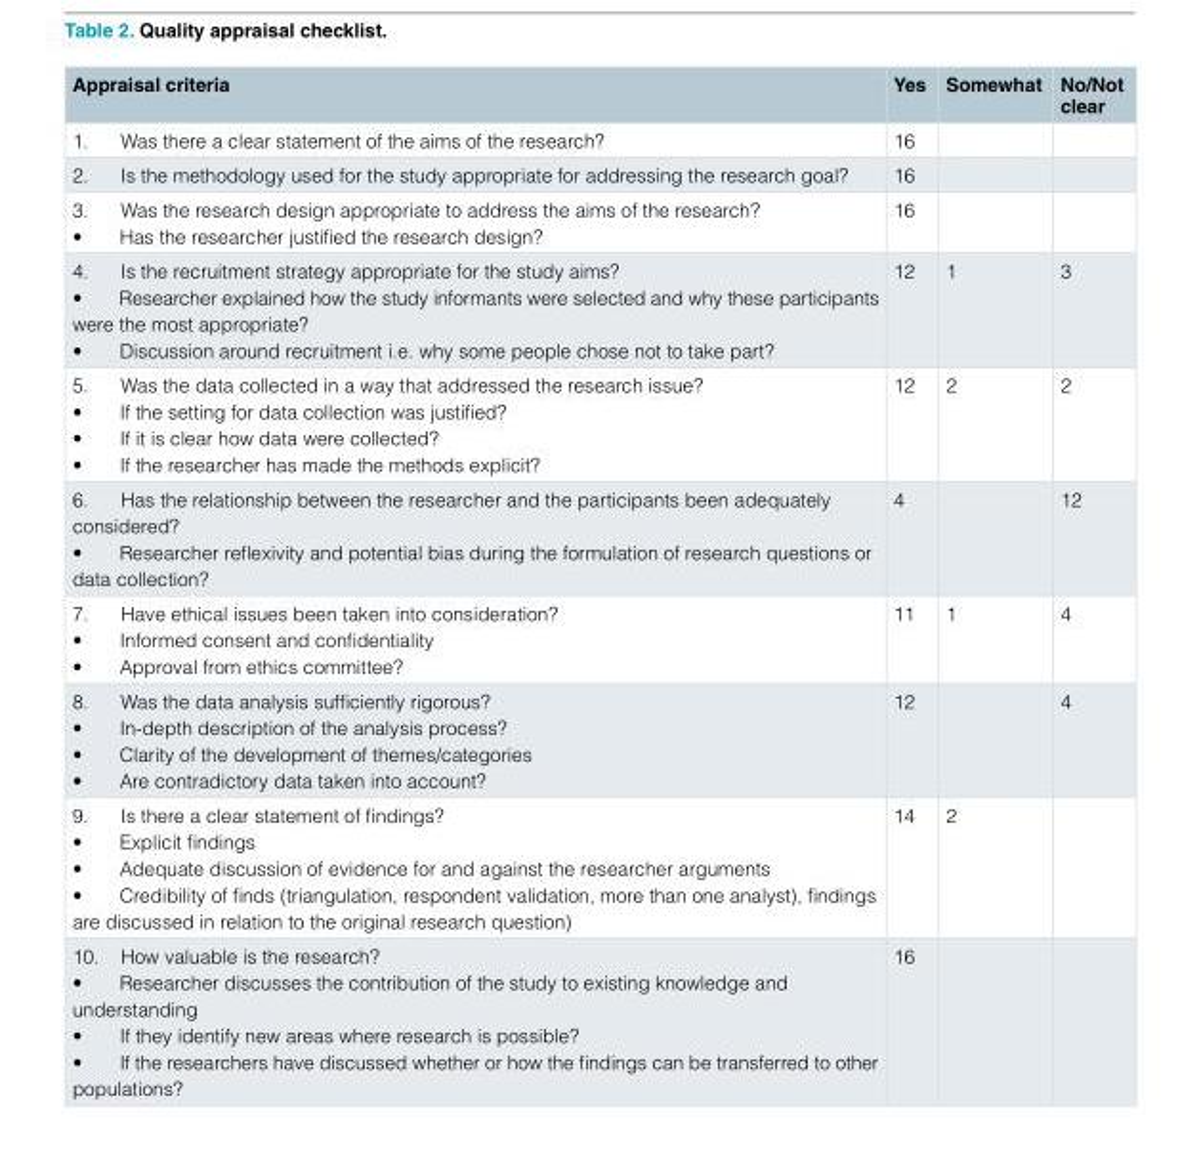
<table><thead><tr><td>Appraisal criteria</td><td>Yes</td><td>Somewhat</td><td>No/Not clear</td></tr></thead><tbody><tr><td>1. Was there a clear statement of the aims of the research?</td><td>16</td><td></td><td></td></tr><tr><td>2. Is the methodology used for the study appropriate for addressing the research goal?</td><td>16</td><td></td><td></td></tr><tr><td>3. Was the research design appropriate to address the aims of the research? • Has the researcher justified the research design?</td><td>16</td><td></td><td></td></tr><tr><td>4. Is the recruitment strategy appropriate for the study aims? • Researcher explained how the study informants were selected and why these participants were the most appropriate? • Discussion around recruitment i.e. why some people chose not to take part?</td><td>12</td><td>1</td><td>3</td></tr><tr><td>5. Was the data collected in a way that addressed the research issue? • If the setting for data collection was justified? • If it is clear how data were collected? • If the researcher has made the methods explicit?</td><td>12</td><td>2</td><td>2</td></tr><tr><td>6. Has the relationship between the researcher and the participants been adequately considered? • Researcher reflexivity and potential bias during the formulation of research questions or data collection?</td><td>4</td><td></td><td>12</td></tr><tr><td>7. Have ethical issues been taken into consideration? • Informed consent and confidentiality • Approval from ethics committee?</td><td>11</td><td>1</td><td>4</td></tr><tr><td>8. Was the data analysis sufficiently rigorous? • In-depth description of the analysis process? • Clarity of the development of themes/categories • Are contradictory data taken into account?</td><td>12</td><td></td><td>4</td></tr><tr><td>9. Is there a clear statement of findings? • Explicit findings • Adequate discussion of evidence for and against the researcher arguments • Credibility of finds (triangulation, respondent validation, more than one analyst), findings are discussed in relation to the original research question)</td><td>14</td><td>2</td><td></td></tr><tr><td>10. How valuable is the research? • Researcher discusses the contribution of the study to existing knowledge and understanding • If they identify new areas where research is possible? • If the researchers have discussed whether or how the findings can be transferred to other populations?</td><td>16</td><td></td><td></td></tr></tbody></table>